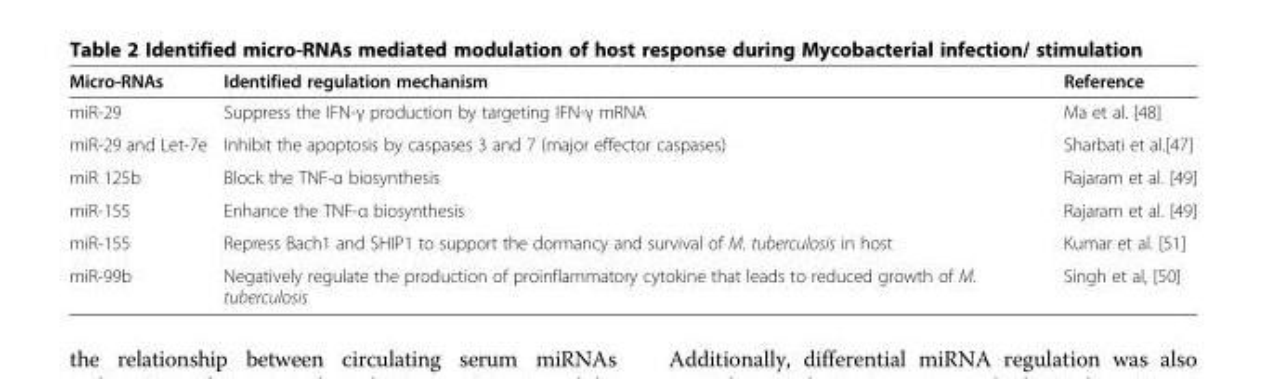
<table><thead><tr><td>Micro-RNAs</td><td>Identified regulation mechanism</td><td>Reference</td></tr></thead><tbody><tr><td>miR-29</td><td>Suppress the IFN-γ production by targeting IFN-γ mRNA</td><td>Ma et al. [48]</td></tr><tr><td>miR-29 and Let-7e</td><td>Inhibit the apoptosis by caspases 3 and 7 (major effector caspases)</td><td>Sharbati et al.[47]</td></tr><tr><td>miR 125b</td><td>Block the TNF-α biosynthesis</td><td>Rajaram et al. [49]</td></tr><tr><td>miR-155</td><td>Enhance the TNF-α biosynthesis</td><td>Rajaram et al. [49]</td></tr><tr><td>miR-155</td><td>Repress Bach1 and SHIP1 to support the dormancy and survival of M. tuberculosis in host</td><td>Kumar et al. [51]</td></tr><tr><td>miR-99b</td><td>Negatively regulate the production of proinflammatory cytokine that leads to reduced growth of M. tuberculosis</td><td>Singh et al, [50]</td></tr></tbody></table>